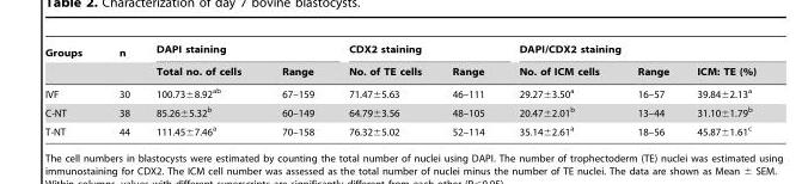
<table><thead><tr><td rowspan="2">Groups</td><td rowspan="2">n</td><td colspan="2">DAPI staining</td><td colspan="2">CDX2 staining</td><td colspan="3">DAPI/CDX2 staining</td></tr><tr><td>Total no. of cells</td><td>Range</td><td>No. of TE cells</td><td>Range</td><td>No. of ICM cells</td><td>Range</td><td>ICM: TE (%)</td></tr></thead><tbody><tr><td>IVF</td><td>30</td><td>100.73±8.92<sup>ab</sup></td><td>67–159</td><td>71.47±5.63</td><td>46–111</td><td>29.27±3.50<sup>a</sup></td><td>16–57</td><td>39.84±2.13<sup>a</sup></td></tr><tr><td>C-NT</td><td>38</td><td>85.26±5.32<sup>b</sup></td><td>60–149</td><td>64.79±3.56</td><td>48–105</td><td>20.47±2.01<sup>b</sup></td><td>13–44</td><td>31.10±1.79<sup>b</sup></td></tr><tr><td>T-NT</td><td>44</td><td>111.45±7.46<sup>a</sup></td><td>70–158</td><td>76.32±5.02</td><td>52–114</td><td>35.14±2.61<sup>a</sup></td><td>18–56</td><td>45.87±1.61<sup>c</sup></td></tr></tbody></table>